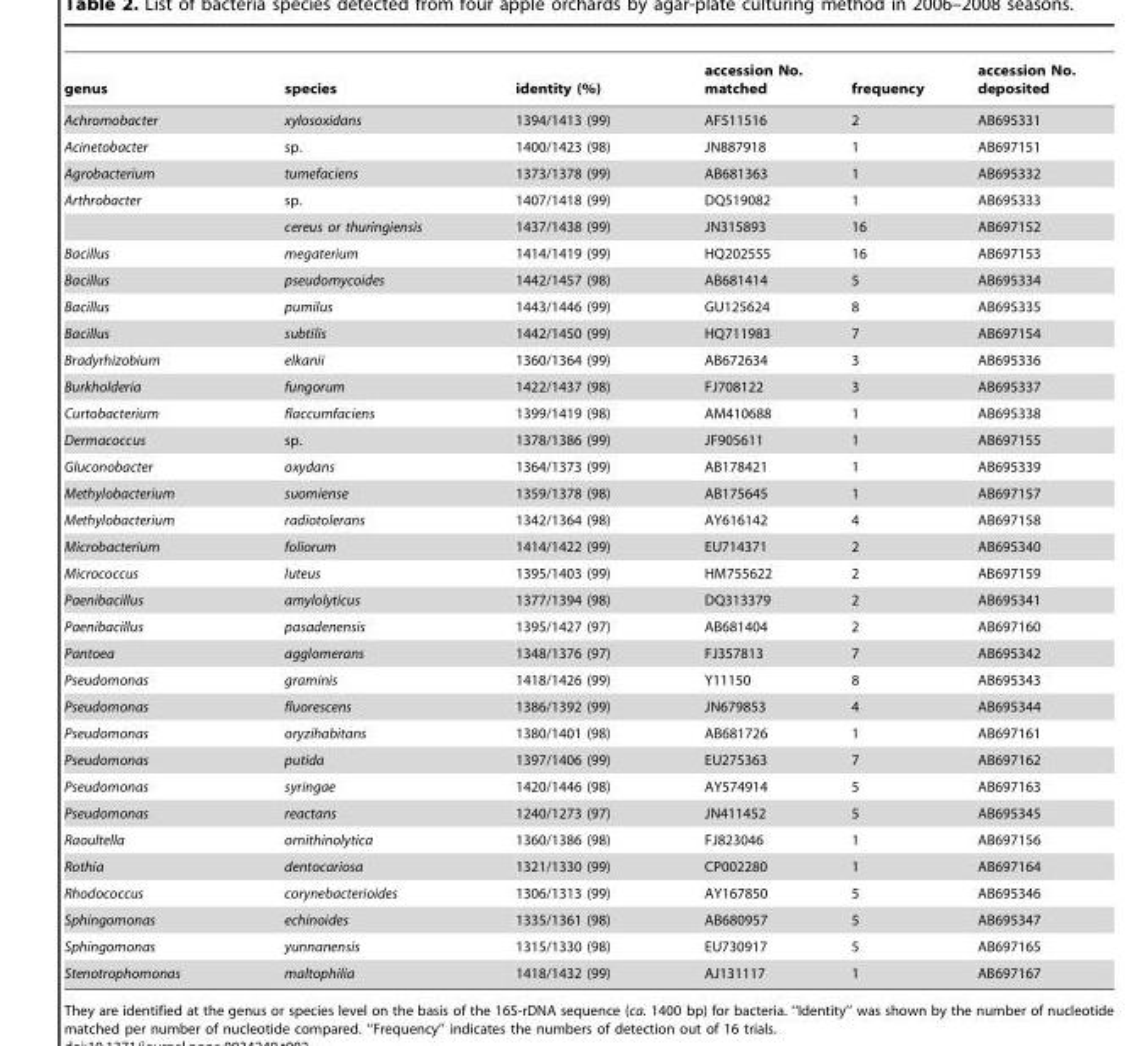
<table><thead><tr><td>genus</td><td>species</td><td>identity (%)</td><td>accession No. matched</td><td>frequency</td><td>accession No. deposited</td></tr></thead><tbody><tr><td>Achromobacter</td><td>xylosoxidans</td><td>1394/1413 (99)</td><td>AF511516</td><td>2</td><td>AB695331</td></tr><tr><td>Acinetobacter</td><td>sp.</td><td>1400/1423 (98)</td><td>JN887918</td><td>1</td><td>AB697151</td></tr><tr><td>Agrobacterium</td><td>tumefaciens</td><td>1373/1378 (99)</td><td>AB681363</td><td>1</td><td>AB695332</td></tr><tr><td rowspan="2">Arthrobacter</td><td>sp.</td><td>1407/1418 (99)</td><td>DQ519082</td><td>1</td><td>AB695333</td></tr><tr><td>cereus or thuringiensis</td><td>1437/1438 (99)</td><td>JN315893</td><td>16</td><td>AB697152</td></tr><tr><td>Bacillus</td><td>megaterium</td><td>1414/1419 (99)</td><td>HQ202555</td><td>16</td><td>AB697153</td></tr><tr><td>Bacillus</td><td>pseudomycoides</td><td>1442/1457 (98)</td><td>AB681414</td><td>5</td><td>AB695334</td></tr><tr><td>Bacillus</td><td>pumilus</td><td>1443/1446 (99)</td><td>GU125624</td><td>8</td><td>AB695335</td></tr><tr><td>Bacillus</td><td>subtilis</td><td>1442/1450 (99)</td><td>HQ711983</td><td>7</td><td>AB697154</td></tr><tr><td>Bradyrhizobium</td><td>elkanii</td><td>1360/1364 (99)</td><td>AB672634</td><td>3</td><td>AB695336</td></tr><tr><td>Burkholderia</td><td>fungorum</td><td>1422/1437 (98)</td><td>FJ708122</td><td>3</td><td>AB695337</td></tr><tr><td>Curtobacterium</td><td>flaccumfaciens</td><td>1399/1419 (98)</td><td>AM410688</td><td>1</td><td>AB695338</td></tr><tr><td>Dermacoccus</td><td>sp.</td><td>1378/1386 (99)</td><td>JF905611</td><td>1</td><td>AB697155</td></tr><tr><td>Gluconobacter</td><td>oxydans</td><td>1364/1373 (99)</td><td>AB178421</td><td>1</td><td>AB695339</td></tr><tr><td>Methylobacterium</td><td>suomiense</td><td>1359/1378 (98)</td><td>AB175645</td><td>1</td><td>AB697157</td></tr><tr><td>Methylobacterium</td><td>radiotolerans</td><td>1342/1364 (98)</td><td>AY616142</td><td>4</td><td>AB697158</td></tr><tr><td>Microbacterium</td><td>foliorum</td><td>1414/1422 (99)</td><td>EU714371</td><td>2</td><td>AB695340</td></tr><tr><td>Micrococcus</td><td>luteus</td><td>1395/1403 (99)</td><td>HM755622</td><td>2</td><td>AB697159</td></tr><tr><td>Paenibacillus</td><td>amylolyticus</td><td>1377/1394 (98)</td><td>DQ313379</td><td>2</td><td>AB695341</td></tr><tr><td>Paenibacillus</td><td>pasadenensis</td><td>1395/1427 (97)</td><td>AB681404</td><td>2</td><td>AB697160</td></tr><tr><td>Pantoea</td><td>agglomerans</td><td>1348/1376 (97)</td><td>FJ357813</td><td>7</td><td>AB695342</td></tr><tr><td>Pseudomonas</td><td>graminis</td><td>1418/1426 (99)</td><td>Y11150</td><td>8</td><td>AB695343</td></tr><tr><td>Pseudomonas</td><td>fluorescens</td><td>1386/1392 (99)</td><td>JN679853</td><td>4</td><td>AB695344</td></tr><tr><td>Pseudomonas</td><td>oryzihabitans</td><td>1380/1401 (98)</td><td>AB681726</td><td>1</td><td>AB697161</td></tr><tr><td>Pseudomonas</td><td>putida</td><td>1397/1406 (99)</td><td>EU275363</td><td>7</td><td>AB697162</td></tr><tr><td>Pseudomonas</td><td>syringae</td><td>1420/1446 (98)</td><td>AY574914</td><td>5</td><td>AB697163</td></tr><tr><td>Pseudomonas</td><td>reactans</td><td>1240/1273 (97)</td><td>JN411452</td><td>5</td><td>AB695345</td></tr><tr><td>Raoultella</td><td>ornithinolytica</td><td>1360/1386 (98)</td><td>FJ823046</td><td>1</td><td>AB697156</td></tr><tr><td>Rothia</td><td>dentocariosa</td><td>1321/1330 (99)</td><td>CP002280</td><td>1</td><td>AB697164</td></tr><tr><td>Rhodococcus</td><td>corynebacterioides</td><td>1306/1313 (99)</td><td>AY167850</td><td>5</td><td>AB695346</td></tr><tr><td>Sphingomonas</td><td>echinoides</td><td>1335/1361 (98)</td><td>AB680957</td><td>5</td><td>AB695347</td></tr><tr><td>Sphingomonas</td><td>yunnanensis</td><td>1315/1330 (98)</td><td>EU730917</td><td>5</td><td>AB697165</td></tr><tr><td>Stenotrophomonas</td><td>maltophilia</td><td>1418/1432 (99)</td><td>AJ131117</td><td>1</td><td>AB697167</td></tr></tbody></table>